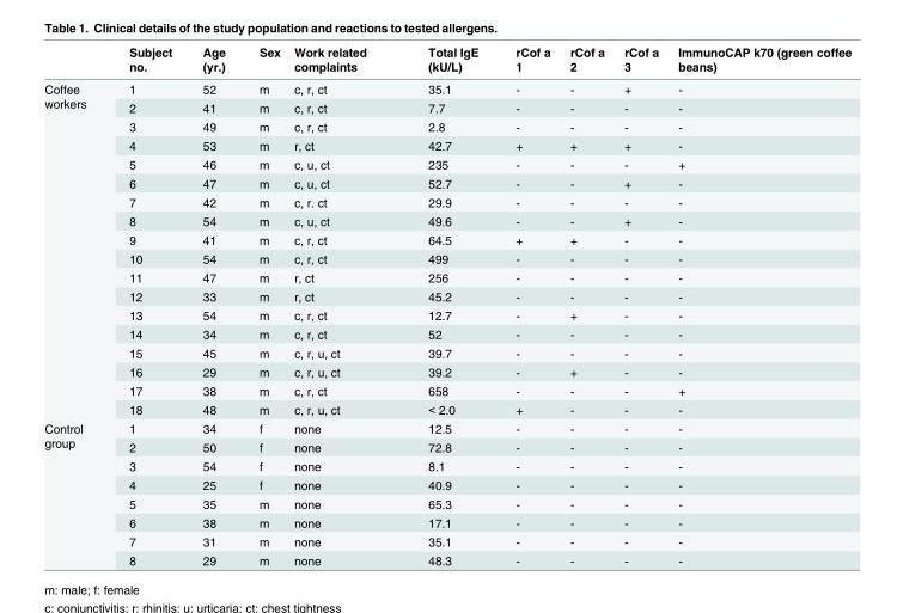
<table><thead><tr><td></td><td>Subject no.</td><td>Age (yr.)</td><td>Sex</td><td>Work related complaints</td><td>Total IgE (kU/L)</td><td>rCof a 1</td><td>rCof a 2</td><td>rCof a 3</td><td>ImmunoCAP k70 (green coffee beans)</td></tr></thead><tbody><tr><td rowspan="18">Coffee workers</td><td>1</td><td>52</td><td>m</td><td>c, r, ct</td><td>35.1</td><td>-</td><td>-</td><td>+</td><td>-</td></tr><tr><td>2</td><td>41</td><td>m</td><td>c, r, ct</td><td>7.7</td><td>-</td><td>-</td><td>-</td><td>-</td></tr><tr><td>3</td><td>49</td><td>m</td><td>c, r, ct</td><td>2.8</td><td>-</td><td>-</td><td>-</td><td>-</td></tr><tr><td>4</td><td>53</td><td>m</td><td>r, ct</td><td>42.7</td><td>+</td><td>+</td><td>+</td><td>-</td></tr><tr><td>5</td><td>46</td><td>m</td><td>c, u, ct</td><td>235</td><td>-</td><td>-</td><td>-</td><td>+</td></tr><tr><td>6</td><td>47</td><td>m</td><td>c, u, ct</td><td>52.7</td><td>-</td><td>-</td><td>+</td><td>-</td></tr><tr><td>7</td><td>42</td><td>m</td><td>c, r. ct</td><td>29.9</td><td>-</td><td>-</td><td>-</td><td>-</td></tr><tr><td>8</td><td>54</td><td>m</td><td>c, u, ct</td><td>49.6</td><td>-</td><td>-</td><td>+</td><td>-</td></tr><tr><td>9</td><td>41</td><td>m</td><td>c, r, ct</td><td>64.5</td><td>+</td><td>+</td><td>-</td><td>-</td></tr><tr><td>10</td><td>54</td><td>m</td><td>c, r, ct</td><td>499</td><td>-</td><td>-</td><td>-</td><td>-</td></tr><tr><td>11</td><td>47</td><td>m</td><td>r, ct</td><td>256</td><td>-</td><td>-</td><td>-</td><td>-</td></tr><tr><td>12</td><td>33</td><td>m</td><td>r, ct</td><td>45.2</td><td>-</td><td>-</td><td>-</td><td>-</td></tr><tr><td>13</td><td>54</td><td>m</td><td>c, r, ct</td><td>12.7</td><td>-</td><td>+</td><td>-</td><td>-</td></tr><tr><td>14</td><td>34</td><td>m</td><td>c, r, ct</td><td>52</td><td>-</td><td>-</td><td>-</td><td>-</td></tr><tr><td>15</td><td>45</td><td>m</td><td>c, r, u, ct</td><td>39.7</td><td>-</td><td>-</td><td>-</td><td>-</td></tr><tr><td>16</td><td>29</td><td>m</td><td>c, r, u, ct</td><td>39.2</td><td>-</td><td>+</td><td>-</td><td>-</td></tr><tr><td>17</td><td>38</td><td>m</td><td>c, r, ct</td><td>658</td><td>-</td><td>-</td><td>-</td><td>+</td></tr><tr><td>18</td><td>48</td><td>m</td><td>c, r, u, ct</td><td>&lt; 2.0</td><td>+</td><td>-</td><td>-</td><td>-</td></tr><tr><td rowspan="8">Control group</td><td>1</td><td>34</td><td>f</td><td>none</td><td>12.5</td><td>-</td><td>-</td><td>-</td><td>-</td></tr><tr><td>2</td><td>50</td><td>f</td><td>none</td><td>72.8</td><td>-</td><td>-</td><td>-</td><td>-</td></tr><tr><td>3</td><td>54</td><td>f</td><td>none</td><td>8.1</td><td>-</td><td>-</td><td>-</td><td>-</td></tr><tr><td>4</td><td>25</td><td>f</td><td>none</td><td>40.9</td><td>-</td><td>-</td><td>-</td><td>-</td></tr><tr><td>5</td><td>35</td><td>m</td><td>none</td><td>65.3</td><td>-</td><td>-</td><td>-</td><td>-</td></tr><tr><td>6</td><td>38</td><td>m</td><td>none</td><td>17.1</td><td>-</td><td>-</td><td>-</td><td>-</td></tr><tr><td>7</td><td>31</td><td>m</td><td>none</td><td>35.1</td><td>-</td><td>-</td><td>-</td><td>-</td></tr><tr><td>8</td><td>29</td><td>m</td><td>none</td><td>48.3</td><td>-</td><td>-</td><td>-</td><td>-</td></tr></tbody></table>